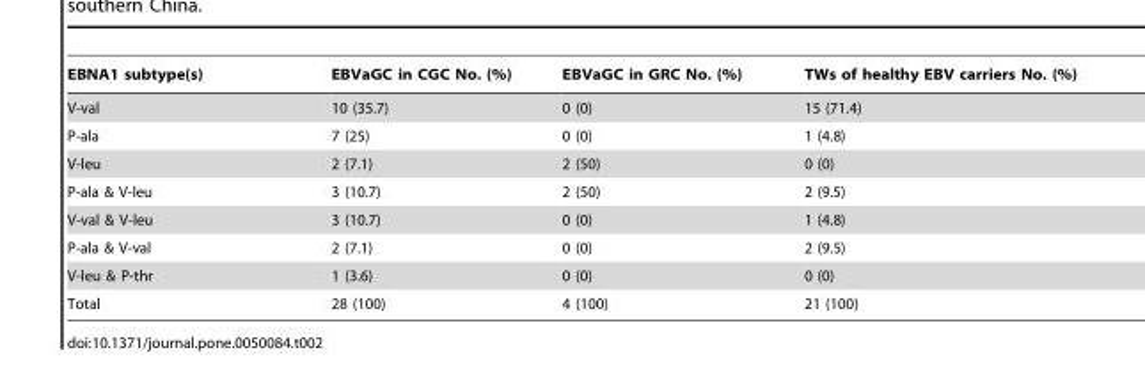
<table><thead><tr><td>EBNA1 subtype(s)</td><td>EBVaGC in CGC No. (%)</td><td>EBVaGC in GRC No. (%)</td><td>TWs of healthy EBV carriers No. (%)</td></tr></thead><tbody><tr><td>V-val</td><td>10 (35.7)</td><td>0 (0)</td><td>15 (71.4)</td></tr><tr><td>P-ala</td><td>7 (25)</td><td>0 (0)</td><td>1 (4.8)</td></tr><tr><td>V-leu</td><td>2 (7.1)</td><td>2 (50)</td><td>0 (0)</td></tr><tr><td>P-ala &amp; V-leu</td><td>3 (10.7)</td><td>2 (50)</td><td>2 (9.5)</td></tr><tr><td>V-val &amp; V-leu</td><td>3 (10.7)</td><td>0 (0)</td><td>1 (4.8)</td></tr><tr><td>P-ala &amp; V-val</td><td>2 (7.1)</td><td>0 (0)</td><td>2 (9.5)</td></tr><tr><td>V-leu &amp; P-thr</td><td>1 (3.6)</td><td>0 (0)</td><td>0 (0)</td></tr><tr><td>Total</td><td>28 (100)</td><td>4 (100)</td><td>21 (100)</td></tr></tbody></table>